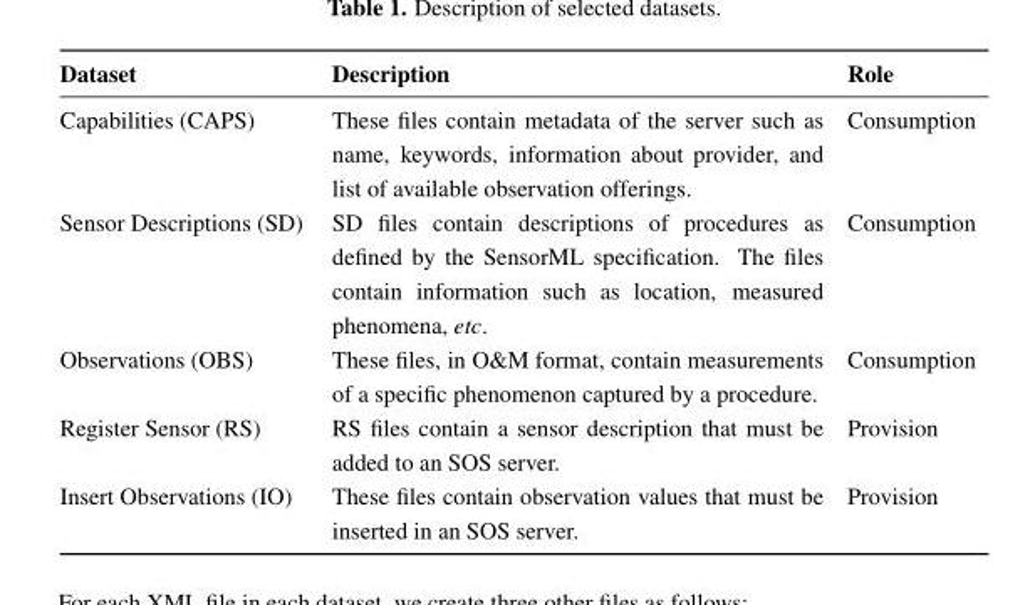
<table><thead><tr><td>Dataset</td><td>Description</td><td>Role</td></tr></thead><tbody><tr><td>Capabilities (CAPS)</td><td>These files contain metadata of the server such as name, keywords, information about provider, and list of available observation offerings.</td><td>Consumption</td></tr><tr><td>Sensor Descriptions (SD)</td><td>SD files contain descriptions of procedures as defined by the SensorML specification. The files contain information such as location, measured phenomena, etc.</td><td>Consumption</td></tr><tr><td>Observations (OBS)</td><td>These files, in O&amp;M format, contain measurements of a specific phenomenon captured by a procedure.</td><td>Consumption</td></tr><tr><td>Register Sensor (RS)</td><td>RS files contain a sensor description that must be added to an SOS server.</td><td>Provision</td></tr><tr><td>Insert Observations (IO)</td><td>These files contain observation values that must be inserted in an SOS server.</td><td>Provision</td></tr></tbody></table>